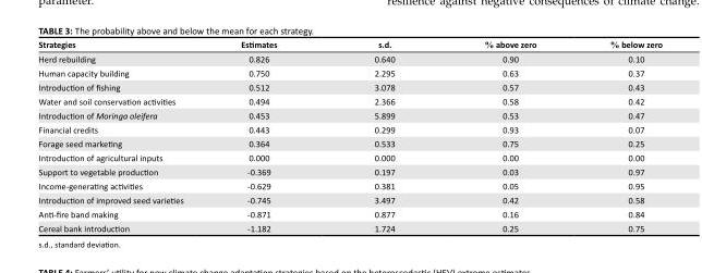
<table><thead><tr><td>Strategies</td><td>Estimates</td><td>s.d.</td><td>% above zero</td><td>% below zero</td></tr></thead><tbody><tr><td>Herd rebuilding</td><td>0.826</td><td>0.640</td><td>0.90</td><td>0.10</td></tr><tr><td>Human capacity building</td><td>0.750</td><td>2.295</td><td>0.63</td><td>0.37</td></tr><tr><td>Introduction of fishing</td><td>0.512</td><td>3.078</td><td>0.57</td><td>0.43</td></tr><tr><td>Water and soil conservation activities</td><td>0.494</td><td>2.366</td><td>0.58</td><td>0.42</td></tr><tr><td>Introduction of Moringa oleifera</td><td>0.453</td><td>5.899</td><td>0.53</td><td>0.47</td></tr><tr><td>Financial credits</td><td>0.443</td><td>0.299</td><td>0.93</td><td>0.07</td></tr><tr><td>Forage seed marketing</td><td>0.364</td><td>0.533</td><td>0.75</td><td>0.25</td></tr><tr><td>Introduction of agricultural inputs</td><td>0.000</td><td>0.000</td><td>0.00</td><td>0.00</td></tr><tr><td>Support to vegetable production</td><td>-0.369</td><td>0.197</td><td>0.03</td><td>0.97</td></tr><tr><td>Income-generating activities</td><td>-0.629</td><td>0.381</td><td>0.05</td><td>0.95</td></tr><tr><td>Introduction of improved seed varieties</td><td>-0.745</td><td>3.497</td><td>0.42</td><td>0.58</td></tr><tr><td>Anti-fire band making</td><td>-0.871</td><td>0.877</td><td>0.16</td><td>0.84</td></tr><tr><td>Cereal bank introduction</td><td>-1.182</td><td>1.724</td><td>0.25</td><td>0.75</td></tr></tbody></table>